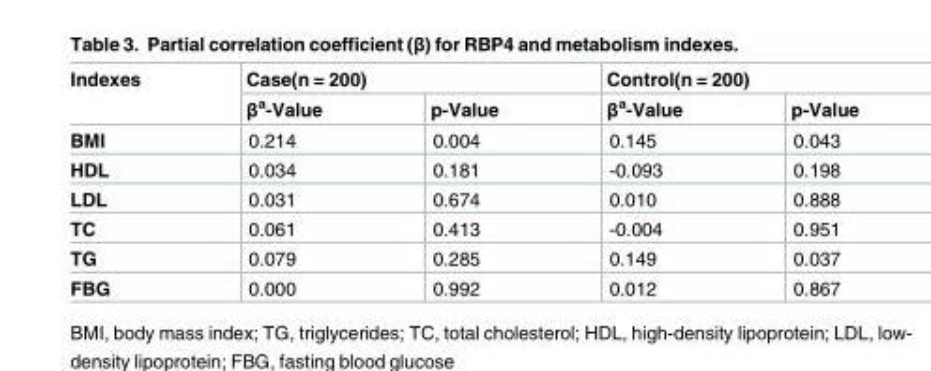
<table><thead><tr><td rowspan="2">Indexes</td><td colspan="2">Case(n = 200)</td><td colspan="2">Control(n = 200)</td></tr><tr><td>β<sup>a</sup>-Value</td><td>p-Value</td><td>β<sup>a</sup>-Value</td><td>p-Value</td></tr></thead><tbody><tr><td>BMI</td><td>0.214</td><td>0.004</td><td>0.145</td><td>0.043</td></tr><tr><td>HDL</td><td>0.034</td><td>0.181</td><td>-0.093</td><td>0.198</td></tr><tr><td>LDL</td><td>0.031</td><td>0.674</td><td>0.010</td><td>0.888</td></tr><tr><td>TC</td><td>0.061</td><td>0.413</td><td>-0.004</td><td>0.951</td></tr><tr><td>TG</td><td>0.079</td><td>0.285</td><td>0.149</td><td>0.037</td></tr><tr><td>FBG</td><td>0.000</td><td>0.992</td><td>0.012</td><td>0.867</td></tr></tbody></table>